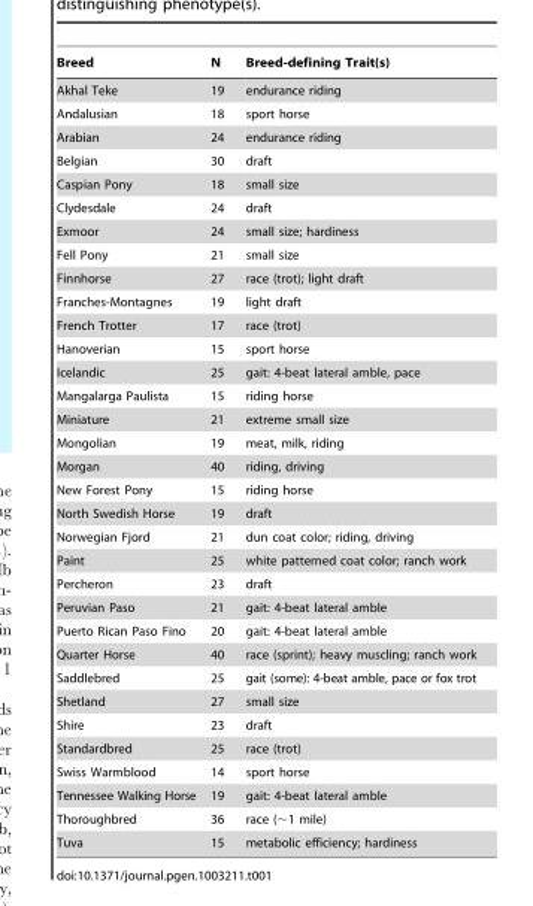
<table><thead><tr><td>Breed</td><td>N</td><td>Breed-defining Trait(s)</td></tr></thead><tbody><tr><td>Akhal Teke</td><td>19</td><td>endurance riding</td></tr><tr><td>Andalusian</td><td>18</td><td>sport horse</td></tr><tr><td>Arabian</td><td>24</td><td>endurance riding</td></tr><tr><td>Belgian</td><td>30</td><td>draft</td></tr><tr><td>Caspian Pony</td><td>18</td><td>small size</td></tr><tr><td>Clydesdale</td><td>24</td><td>draft</td></tr><tr><td>Exmoor</td><td>24</td><td>small size; hardiness</td></tr><tr><td>Fell Pony</td><td>21</td><td>small size</td></tr><tr><td>Finnhorse</td><td>27</td><td>race (trot); light draft</td></tr><tr><td>Franches-Montagnes</td><td>19</td><td>light draft</td></tr><tr><td>French Trotter</td><td>17</td><td>race (trot)</td></tr><tr><td>Hanoverian</td><td>15</td><td>sport horse</td></tr><tr><td>Icelandic</td><td>25</td><td>gait: 4-beat lateral amble, pace</td></tr><tr><td>Mangalarga Paulista</td><td>15</td><td>riding horse</td></tr><tr><td>Miniature</td><td>21</td><td>extreme small size</td></tr><tr><td>Mongolian</td><td>19</td><td>meat, milk, riding</td></tr><tr><td>Morgan</td><td>40</td><td>riding, driving</td></tr><tr><td>New Forest Pony</td><td>15</td><td>riding horse</td></tr><tr><td>North Swedish Horse</td><td>19</td><td>draft</td></tr><tr><td>Norwegian Fjord</td><td>21</td><td>dun coat color; riding, driving</td></tr><tr><td>Paint</td><td>25</td><td>white patterned coat color; ranch work</td></tr><tr><td>Percheron</td><td>23</td><td>draft</td></tr><tr><td>Peruvian Paso</td><td>21</td><td>gait: 4-beat lateral amble</td></tr><tr><td>Puerto Rican Paso Fino</td><td>20</td><td>gait: 4-beat lateral amble</td></tr><tr><td>Quarter Horse</td><td>40</td><td>race (sprint); heavy muscling; ranch work</td></tr><tr><td>Saddlebred</td><td>25</td><td>gait (some): 4-beat amble, pace or fox trot</td></tr><tr><td>Shetland</td><td>27</td><td>small size</td></tr><tr><td>Shire</td><td>23</td><td>draft</td></tr><tr><td>Standardbred</td><td>25</td><td>race (trot)</td></tr><tr><td>Swiss Warmblood</td><td>14</td><td>sport horse</td></tr><tr><td>Tennessee Walking Horse</td><td>19</td><td>gait: 4-beat lateral amble</td></tr><tr><td>Thoroughbred</td><td>36</td><td>race (∼1 mile)</td></tr><tr><td>Tuva</td><td>15</td><td>metabolic efficiency; hardiness</td></tr></tbody></table>